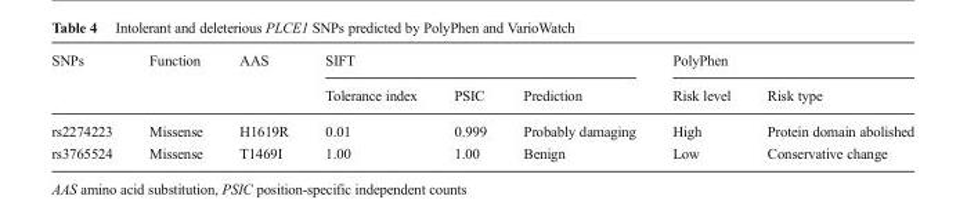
<table><thead><tr><td rowspan="2">SNPs</td><td rowspan="2">Function</td><td rowspan="2">AAS</td><td colspan="3">SIFT</td><td colspan="2">PolyPhen</td></tr><tr><td>Tolerance index</td><td>PSIC</td><td>Prediction</td><td>Risk level</td><td>Risk type</td></tr></thead><tbody><tr><td>rs2274223</td><td>Missense</td><td>H1619R</td><td>0.01</td><td>0.999</td><td>Probably damaging</td><td>High</td><td>Protein domain abolished</td></tr><tr><td>rs3765524</td><td>Missense</td><td>T1469I</td><td>1.00</td><td>1.00</td><td>Benign</td><td>Low</td><td>Conservative change</td></tr></tbody></table>